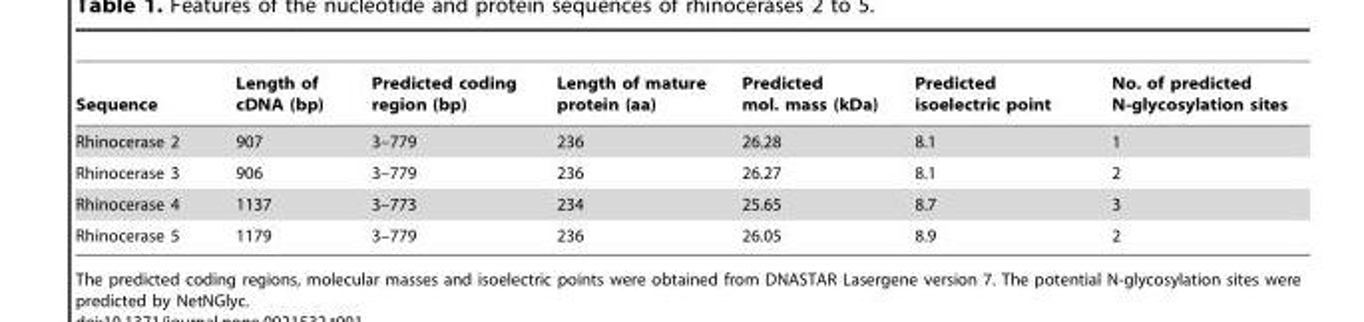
<table><thead><tr><td>Sequence</td><td>Length of cDNA (bp)</td><td>Predicted coding region (bp)</td><td>Length of mature protein (aa)</td><td>Predicted mol. mass (kDa)</td><td>Predicted isoelectric point</td><td>No. of predicted N-glycosylation sites</td></tr></thead><tbody><tr><td>Rhinocerase 2</td><td>907</td><td>3–779</td><td>236</td><td>26.28</td><td>8.1</td><td>1</td></tr><tr><td>Rhinocerase 3</td><td>906</td><td>3–779</td><td>236</td><td>26.27</td><td>8.1</td><td>2</td></tr><tr><td>Rhinocerase 4</td><td>1137</td><td>3–773</td><td>234</td><td>25.65</td><td>8.7</td><td>3</td></tr><tr><td>Rhinocerase 5</td><td>1179</td><td>3–779</td><td>236</td><td>26.05</td><td>8.9</td><td>2</td></tr></tbody></table>